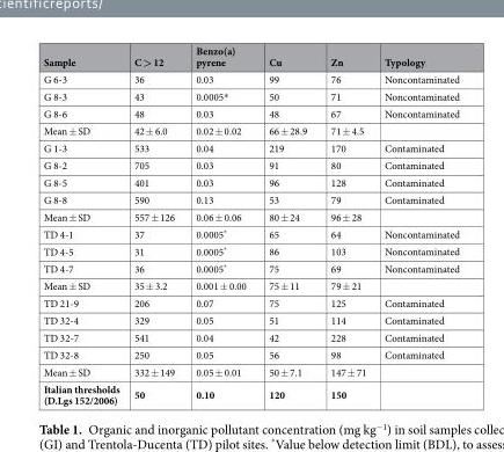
<table><thead><tr><td>Sample</td><td>C &gt; 12</td><td>Benzo(a) pyrene</td><td>Cu</td><td>Zn</td><td>Typology</td></tr></thead><tbody><tr><td>G 6-3</td><td>36</td><td>0.03</td><td>99</td><td>76</td><td>Noncontaminated</td></tr><tr><td>G 8-3</td><td>43</td><td>0.0005*</td><td>50</td><td>71</td><td>Noncontaminated</td></tr><tr><td>G 8-6</td><td>48</td><td>0.03</td><td>48</td><td>67</td><td>Noncontaminated</td></tr><tr><td>Mean ± SD</td><td>42 ± 6.0</td><td>0.02 ± 0.02</td><td>66 ± 28.9</td><td>71 ± 4.5</td><td></td></tr><tr><td>G 1-3</td><td>533</td><td>0.04</td><td>219</td><td>170</td><td>Contaminated</td></tr><tr><td>G 8-2</td><td>705</td><td>0.03</td><td>91</td><td>80</td><td>Contaminated</td></tr><tr><td>G 8-5</td><td>401</td><td>0.03</td><td>96</td><td>128</td><td>Contaminated</td></tr><tr><td>G 8-8</td><td>590</td><td>0.13</td><td>53</td><td>79</td><td>Contaminated</td></tr><tr><td>Mean ± SD</td><td>557 ± 126</td><td>0.06 ± 0.06</td><td>80 ± 24</td><td>96 ± 28</td><td></td></tr><tr><td>TD 4-1</td><td>37</td><td>0.0005*</td><td>65</td><td>64</td><td>Noncontaminated</td></tr><tr><td>TD 4-5</td><td>31</td><td>0.0005*</td><td>86</td><td>103</td><td>Noncontaminated</td></tr><tr><td>TD 4-7</td><td>36</td><td>0.0005*</td><td>75</td><td>69</td><td>Noncontaminated</td></tr><tr><td>Mean ± SD</td><td>35 ± 3.2</td><td>0.001 ± 0.00</td><td>75 ± 11</td><td>79 ± 21</td><td></td></tr><tr><td>TD 21-9</td><td>206</td><td>0.07</td><td>75</td><td>125</td><td>Contaminated</td></tr><tr><td>TD 32-4</td><td>329</td><td>0.05</td><td>51</td><td>114</td><td>Contaminated</td></tr><tr><td>TD 32-7</td><td>541</td><td>0.04</td><td>42</td><td>228</td><td>Contaminated</td></tr><tr><td>TD 32-8</td><td>250</td><td>0.05</td><td>56</td><td>98</td><td>Contaminated</td></tr><tr><td>Mean ± SD</td><td>332 ± 149</td><td>0.05 ± 0.01</td><td>50 ± 7.1</td><td>147 ± 71</td><td></td></tr><tr><td>Italian thresholds (D.Lgs 152/2006)</td><td>50</td><td>0.10</td><td>120</td><td>150</td><td></td></tr></tbody></table>